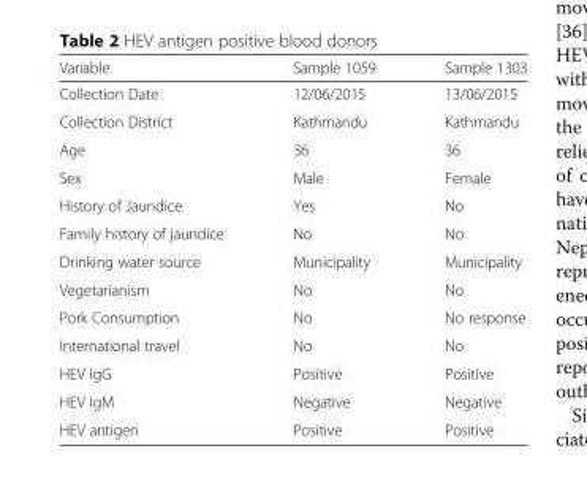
<table><thead><tr><td>Variable</td><td>Sample 1059</td><td>Sample 1303</td></tr></thead><tbody><tr><td>Collection Date</td><td>12/06/2015</td><td>13/06/2015</td></tr><tr><td>Collection District</td><td>Kathmandu</td><td>Kathmandu</td></tr><tr><td>Age</td><td>36</td><td>36</td></tr><tr><td>Sex</td><td>Male</td><td>Female</td></tr><tr><td>History of Jaundice</td><td>Yes</td><td>No</td></tr><tr><td>Family history of jaundice</td><td>No</td><td>No</td></tr><tr><td>Drinking water source</td><td>Municipality</td><td>Municipality</td></tr><tr><td>Vegetarianism</td><td>No</td><td>No</td></tr><tr><td>Pork Consumption</td><td>No</td><td>No response</td></tr><tr><td>International travel</td><td>No</td><td>No</td></tr><tr><td>HEV IgG</td><td>Positive</td><td>Positive</td></tr><tr><td>HEV IgM</td><td>Negative</td><td>Negative</td></tr><tr><td>HEV antigen</td><td>Positive</td><td>Positive</td></tr></tbody></table>